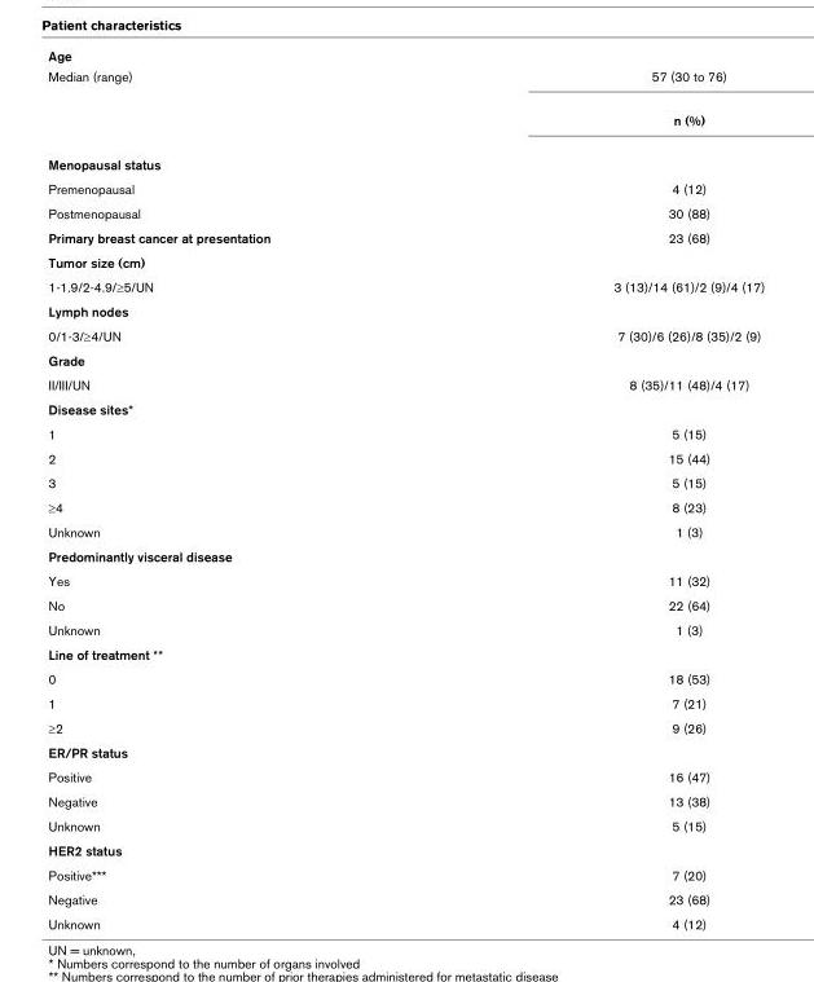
<table><tbody><tr><td colspan="2">Age</td></tr><tr><td rowspan="2">Median (range)</td><td>57 (30 to 76)</td></tr><tr><td>n (%)</td></tr><tr><td colspan="2">Menopausal status</td></tr><tr><td>Premenopausal</td><td>4 (12)</td></tr><tr><td>Postmenopausal</td><td>30 (88)</td></tr><tr><td>Primary breast cancer at presentation</td><td>23 (68)</td></tr><tr><td colspan="2">Tumor size (cm)</td></tr><tr><td>1-1.9/2-4.9/≥5/UN</td><td>3 (13)/14 (61)/2 (9)/4 (17)</td></tr><tr><td colspan="2">Lymph nodes</td></tr><tr><td>0/1-3/≥4/UN</td><td>7 (30)/6 (26)/8 (35)/2 (9)</td></tr><tr><td colspan="2">Grade</td></tr><tr><td>II/III/UN</td><td>8 (35)/11 (48)/4 (17)</td></tr><tr><td colspan="2">Disease sites*</td></tr><tr><td>1</td><td>5 (15)</td></tr><tr><td>2</td><td>15 (44)</td></tr><tr><td>3</td><td>5 (15)</td></tr><tr><td>≥4</td><td>8 (23)</td></tr><tr><td>Unknown</td><td>1 (3)</td></tr><tr><td colspan="2">Predominantly visceral disease</td></tr><tr><td>Yes</td><td>11 (32)</td></tr><tr><td>No</td><td>22 (64)</td></tr><tr><td>Unknown</td><td>1 (3)</td></tr><tr><td colspan="2">Line of treatment **</td></tr><tr><td>0</td><td>18 (53)</td></tr><tr><td>1</td><td>7 (21)</td></tr><tr><td>≥2</td><td>9 (26)</td></tr><tr><td colspan="2">ER/PR status</td></tr><tr><td>Positive</td><td>16 (47)</td></tr><tr><td>Negative</td><td>13 (38)</td></tr><tr><td>Unknown</td><td>5 (15)</td></tr><tr><td colspan="2">HER2 status</td></tr><tr><td>Positive***</td><td>7 (20)</td></tr><tr><td>Negative</td><td>23 (68)</td></tr><tr><td>Unknown</td><td>4 (12)</td></tr></tbody></table>